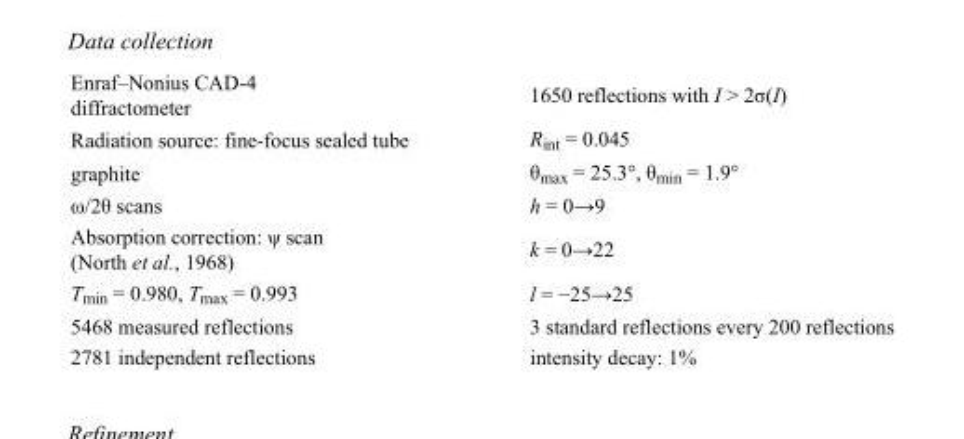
<table><tbody><tr><td>Enraf–Nonius CAD-4 diffractometer</td><td>1650 reflections with I &gt; 2σ(I)</td></tr><tr><td>Radiation source: fine-focus sealed tube</td><td>R<sub>int</sub> = 0.045</td></tr><tr><td>graphite</td><td>θ<sub>max</sub> = 25.3°, θ<sub>min</sub> = 1.9°</td></tr><tr><td>ω/2θ scans</td><td>h = 0→9</td></tr><tr><td>Absorption correction: ψ scan (North et al., 1968)</td><td>k = 0→22</td></tr><tr><td>T<sub>min</sub> = 0.980, T<sub>max</sub> = 0.993</td><td>l = −25→25</td></tr><tr><td>5468 measured reflections</td><td>3 standard reflections every 200 reflections</td></tr><tr><td>2781 independent reflections</td><td>intensity decay: 1%</td></tr></tbody></table>